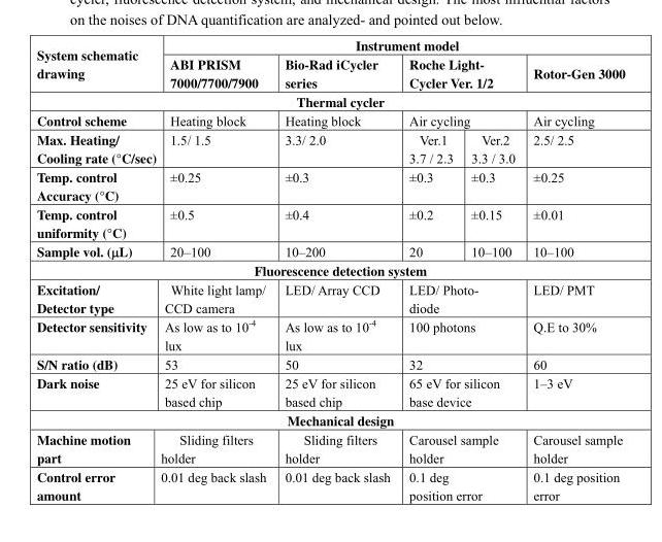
<table><thead><tr><td rowspan="2">System schematic drawing</td><td colspan="5">Instrument model</td></tr><tr><td>ABI PRISM 7000/7700/7900</td><td>Bio-Rad iCycler series</td><td colspan="2">Roche Light- Cycler Ver. 1/2</td><td>Rotor-Gen 3000</td></tr><tr><td colspan="6">Thermal cycler</td></tr><tr><td rowspan="2">Control scheme Max. Heating/ Cooling rate (°C/sec)</td><td rowspan="2">Heating block 1.5/ 1.5</td><td rowspan="2">Heating block 3.3/ 2.0</td><td colspan="2">Air cycling</td><td rowspan="2">Air cycling 2.5/ 2.5</td></tr><tr><td>Ver.1 3.7 / 2.3</td><td>Ver.2 3.3 / 3.0</td></tr></thead><tbody><tr><td>Temp. control Accuracy (°C)</td><td>±0.25</td><td>±0.3</td><td>±0.3</td><td>±0.3</td><td>±0.25</td></tr><tr><td>Temp. control uniformity (°C)</td><td>±0.5</td><td>±0.4</td><td>±0.2</td><td>±0.15</td><td>±0.01</td></tr><tr><td>Sample vol. (μL)</td><td>20–100</td><td>10–200</td><td>20</td><td>10–100</td><td>10–100</td></tr><tr><td colspan="6">Fluorescence detection system</td></tr><tr><td>Excitation/ Detector type</td><td>White light lamp/ CCD camera</td><td>LED/ Array CCD</td><td colspan="2">LED/ Photo- diode</td><td>LED/ PMT</td></tr><tr><td>Detector sensitivity</td><td>As low as to 10<sup>-4</sup> lux</td><td>As low as to 10<sup>-4</sup> lux</td><td colspan="2">100 photons</td><td>Q.E to 30%</td></tr><tr><td>S/N ratio (dB)</td><td>53</td><td>50</td><td colspan="2">32</td><td>60</td></tr><tr><td>Dark noise</td><td>25 eV for silicon based chip</td><td>25 eV for silicon based chip</td><td colspan="2">65 eV for silicon base device</td><td>1–3 eV</td></tr><tr><td colspan="6">Mechanical design</td></tr><tr><td>Machine motion part</td><td>Sliding filters holder</td><td>Sliding filters holder</td><td colspan="2">Carousel sample holder</td><td>Carousel sample holder</td></tr><tr><td>Control error amount</td><td>0.01 deg back slash</td><td>0.01 deg back slash</td><td colspan="2">0.1 deg position error</td><td>0.1 deg position error</td></tr></tbody></table>